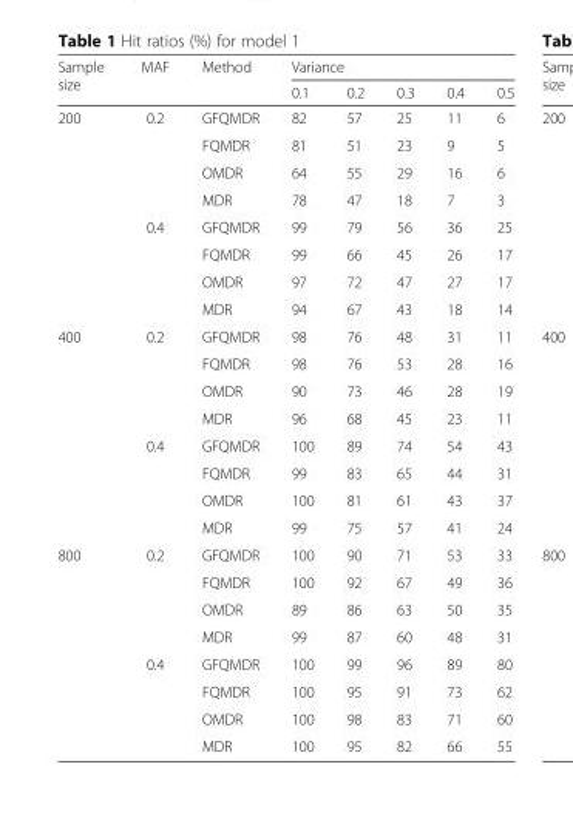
<table><thead><tr><td rowspan="2">Sample size</td><td rowspan="2">MAF</td><td rowspan="2">Method</td><td colspan="5">Variance</td></tr><tr><td>0.1</td><td>0.2</td><td>0.3</td><td>0.4</td><td>0.5</td></tr></thead><tbody><tr><td rowspan="8">200</td><td rowspan="4">0.2</td><td>GFQMDR</td><td>82</td><td>57</td><td>25</td><td>11</td><td>6</td></tr><tr><td>FQMDR</td><td>81</td><td>51</td><td>23</td><td>9</td><td>5</td></tr><tr><td>OMDR</td><td>64</td><td>55</td><td>29</td><td>16</td><td>6</td></tr><tr><td>MDR</td><td>78</td><td>47</td><td>18</td><td>7</td><td>3</td></tr><tr><td rowspan="4">0.4</td><td>GFQMDR</td><td>99</td><td>79</td><td>56</td><td>36</td><td>25</td></tr><tr><td>FQMDR</td><td>99</td><td>66</td><td>45</td><td>26</td><td>17</td></tr><tr><td>OMDR</td><td>97</td><td>72</td><td>47</td><td>27</td><td>17</td></tr><tr><td>MDR</td><td>94</td><td>67</td><td>43</td><td>18</td><td>14</td></tr><tr><td rowspan="8">400</td><td rowspan="4">0.2</td><td>GFQMDR</td><td>98</td><td>76</td><td>48</td><td>31</td><td>11</td></tr><tr><td>FQMDR</td><td>98</td><td>76</td><td>53</td><td>28</td><td>16</td></tr><tr><td>OMDR</td><td>90</td><td>73</td><td>46</td><td>28</td><td>19</td></tr><tr><td>MDR</td><td>96</td><td>68</td><td>45</td><td>23</td><td>11</td></tr><tr><td rowspan="4">0.4</td><td>GFQMDR</td><td>100</td><td>89</td><td>74</td><td>54</td><td>43</td></tr><tr><td>FQMDR</td><td>99</td><td>83</td><td>65</td><td>44</td><td>31</td></tr><tr><td>OMDR</td><td>100</td><td>81</td><td>61</td><td>43</td><td>37</td></tr><tr><td>MDR</td><td>99</td><td>75</td><td>57</td><td>41</td><td>24</td></tr><tr><td rowspan="8">800</td><td rowspan="4">0.2</td><td>GFQMDR</td><td>100</td><td>90</td><td>71</td><td>53</td><td>33</td></tr><tr><td>FQMDR</td><td>100</td><td>92</td><td>67</td><td>49</td><td>36</td></tr><tr><td>OMDR</td><td>89</td><td>86</td><td>63</td><td>50</td><td>35</td></tr><tr><td>MDR</td><td>99</td><td>87</td><td>60</td><td>48</td><td>31</td></tr><tr><td rowspan="4">0.4</td><td>GFQMDR</td><td>100</td><td>99</td><td>96</td><td>89</td><td>80</td></tr><tr><td>FQMDR</td><td>100</td><td>95</td><td>91</td><td>73</td><td>62</td></tr><tr><td>OMDR</td><td>100</td><td>98</td><td>83</td><td>71</td><td>60</td></tr><tr><td>MDR</td><td>100</td><td>95</td><td>82</td><td>66</td><td>55</td></tr></tbody></table>